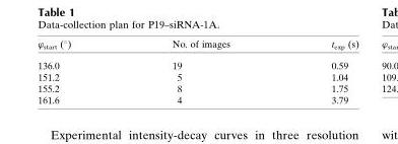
<table><thead><tr><td>’start (�)</td><td>No. of images</td><td>t<sub>exp</sub> (s)</td></tr></thead><tbody><tr><td>136.0</td><td>19</td><td>0.59</td></tr><tr><td>151.2</td><td>5</td><td>1.04</td></tr><tr><td>155.2</td><td>8</td><td>1.75</td></tr><tr><td>161.6</td><td>4</td><td>3.79</td></tr></tbody></table>